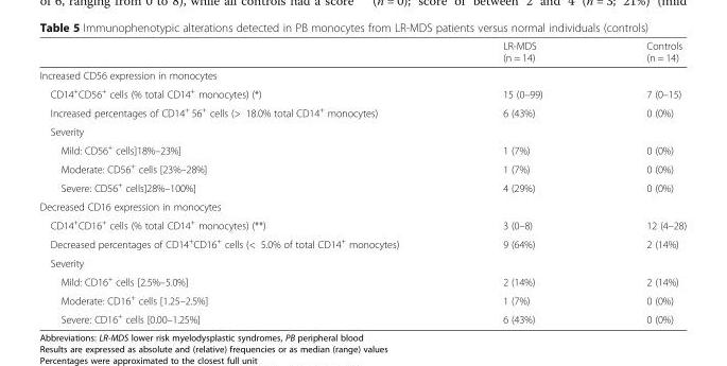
<table><thead><tr><td></td><td>LR-MDS (n = 14)</td><td>Controls (n = 14)</td></tr></thead><tbody><tr><td colspan="3">Increased CD56 expression in monocytes</td></tr><tr><td>CD14<sup>+</sup>CD56<sup>+</sup> cells (% total CD14<sup>+</sup> monocytes) (*)</td><td>15 (0–99)</td><td>7 (0–15)</td></tr><tr><td>Increased percentages of CD14<sup>+</sup> 56<sup>+</sup> cells (&gt; 18.0% total CD14<sup>+</sup> monocytes)</td><td>6 (43%)</td><td>0 (0%)</td></tr><tr><td colspan="3">Severity</td></tr><tr><td>Mild: CD56<sup>+</sup> cells]18%–23%]</td><td>1 (7%)</td><td>0 (0%)</td></tr><tr><td>Moderate: CD56<sup>+</sup> cells [23%–28%]</td><td>1 (7%)</td><td>0 (0%)</td></tr><tr><td>Severe: CD56<sup>+</sup> cells]28%–100%]</td><td>4 (29%)</td><td>0 (0%)</td></tr><tr><td colspan="3">Decreased CD16 expression in monocytes</td></tr><tr><td>CD14<sup>+</sup>CD16<sup>+</sup> cells (% total CD14<sup>+</sup> monocytes) (**)</td><td>3 (0–8)</td><td>12 (4–28)</td></tr><tr><td>Decreased percentages of CD14<sup>+</sup>CD16<sup>+</sup> cells (&lt; 5.0% of total CD14<sup>+</sup> monocytes)</td><td>9 (64%)</td><td>2 (14%)</td></tr><tr><td colspan="3">Severity</td></tr><tr><td>Mild: CD16<sup>+</sup> cells [2.5%–5.0%]</td><td>2 (14%)</td><td>2 (14%)</td></tr><tr><td>Moderate: CD16<sup>+</sup> cells [1.25–2.5%]</td><td>1 (7%)</td><td>0 (0%)</td></tr><tr><td>Severe: CD16<sup>+</sup> cells [0.00–1.25%]</td><td>6 (43%)</td><td>0 (0%)</td></tr></tbody></table>